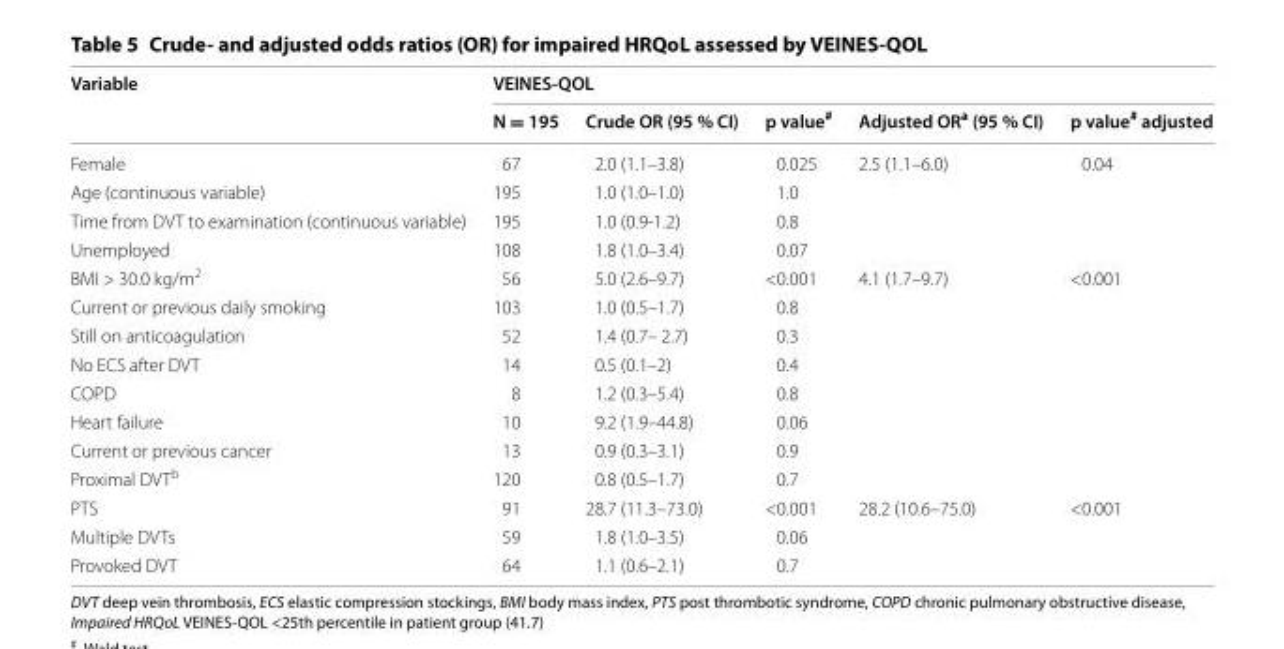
<table><thead><tr><td rowspan="2">Variable</td><td colspan="5">VEINES-QOL</td></tr><tr><td>N = 195</td><td>Crude OR (95 % CI)</td><td>p value<sup>#</sup></td><td>Adjusted OR<sup>a</sup> (95 % CI)</td><td>p value<sup>#</sup> adjusted</td></tr></thead><tbody><tr><td>Female</td><td>67</td><td>2.0 (1.1–3.8)</td><td>0.025</td><td>2.5 (1.1–6.0)</td><td>0.04</td></tr><tr><td>Age (continuous variable)</td><td>195</td><td>1.0 (1.0–1.0)</td><td>1.0</td><td></td><td></td></tr><tr><td>Time from DVT to examination (continuous variable)</td><td>195</td><td>1.0 (0.9‑1.2)</td><td>0.8</td><td></td><td></td></tr><tr><td>Unemployed</td><td>108</td><td>1.8 (1.0–3.4)</td><td>0.07</td><td></td><td></td></tr><tr><td>BMI &gt; 30.0 kg/m<sup>2</sup></td><td>56</td><td>5.0 (2.6–9.7)</td><td>&lt;0.001</td><td>4.1 (1.7–9.7)</td><td>&lt;0.001</td></tr><tr><td>Current or previous daily smoking</td><td>103</td><td>1.0 (0.5–1.7)</td><td>0.8</td><td></td><td></td></tr><tr><td>Still on anticoagulation</td><td>52</td><td>1.4 (0.7– 2.7)</td><td>0.3</td><td></td><td></td></tr><tr><td>No ECS after DVT</td><td>14</td><td>0.5 (0.1–2)</td><td>0.4</td><td></td><td></td></tr><tr><td>COPD</td><td>8</td><td>1.2 (0.3–5.4)</td><td>0.8</td><td></td><td></td></tr><tr><td>Heart failure</td><td>10</td><td>9.2 (1.9–44.8)</td><td>0.06</td><td></td><td></td></tr><tr><td>Current or previous cancer</td><td>13</td><td>0.9 (0.3–3.1)</td><td>0.9</td><td></td><td></td></tr><tr><td>Proximal DVT<sup>b</sup></td><td>120</td><td>0.8 (0.5–1.7)</td><td>0.7</td><td></td><td></td></tr><tr><td>PTS</td><td>91</td><td>28.7 (11.3–73.0)</td><td>&lt;0.001</td><td>28.2 (10.6–75.0)</td><td>&lt;0.001</td></tr><tr><td>Multiple DVTs</td><td>59</td><td>1.8 (1.0–3.5)</td><td>0.06</td><td></td><td></td></tr><tr><td>Provoked DVT</td><td>64</td><td>1.1 (0.6–2.1)</td><td>0.7</td><td></td><td></td></tr></tbody></table>